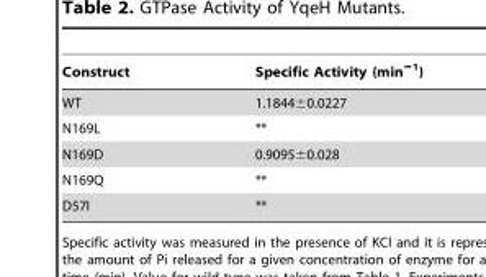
<table><thead><tr><td>Construct</td><td>Specific Activity (min<sup>−1</sup>)</td></tr></thead><tbody><tr><td>WT</td><td>1.1844±0.0227</td></tr><tr><td>N169L</td><td>**</td></tr><tr><td>N169D</td><td>0.9095±0.028</td></tr><tr><td>N169Q</td><td>**</td></tr><tr><td>D57I</td><td>**</td></tr></tbody></table>